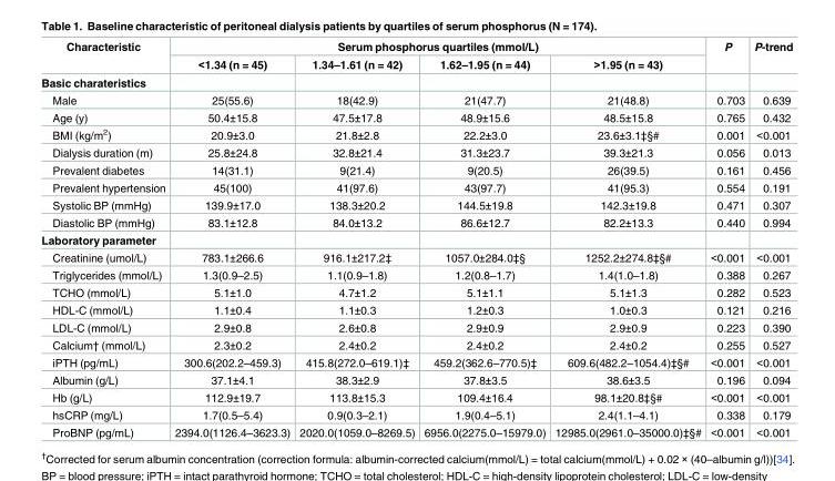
<table><thead><tr><td rowspan="2">Characteristic</td><td colspan="4">Serum phosphorus quartiles (mmol/L)</td><td rowspan="2">P</td><td rowspan="2">P-trend</td></tr><tr><td>&lt;1.34 (n = 45)</td><td>1.34–1.61 (n = 42)</td><td>1.62–1.95 (n = 44)</td><td>&gt;1.95 (n = 43)</td></tr></thead><tbody><tr><td colspan="7">Basic charateristics</td></tr><tr><td>Male</td><td>25(55.6)</td><td>18(42.9)</td><td>21(47.7)</td><td>21(48.8)</td><td>0.703</td><td>0.639</td></tr><tr><td>Age (y)</td><td>50.4±15.8</td><td>47.5±17.8</td><td>48.9±15.6</td><td>48.5±15.8</td><td>0.765</td><td>0.432</td></tr><tr><td>BMI (kg/m<sup>2</sup>)</td><td>20.9±3.0</td><td>21.8±2.8</td><td>22.2±3.0</td><td>23.6±3.1‡§#</td><td>0.001</td><td>&lt;0.001</td></tr><tr><td>Dialysis duration (m)</td><td>25.8±24.8</td><td>32.8±21.4</td><td>31.3±23.7</td><td>39.3±21.3</td><td>0.056</td><td>0.013</td></tr><tr><td>Prevalent diabetes</td><td>14(31.1)</td><td>9(21.4)</td><td>9(20.5)</td><td>26(39.5)</td><td>0.161</td><td>0.456</td></tr><tr><td>Prevalent hypertension</td><td>45(100)</td><td>41(97.6)</td><td>43(97.7)</td><td>41(95.3)</td><td>0.554</td><td>0.191</td></tr><tr><td>Systolic BP (mmHg)</td><td>139.9±17.0</td><td>138.3±20.2</td><td>144.5±19.8</td><td>142.3±19.8</td><td>0.471</td><td>0.307</td></tr><tr><td>Diastolic BP (mmHg)</td><td>83.1±12.8</td><td>84.0±13.2</td><td>86.6±12.7</td><td>82.2±13.3</td><td>0.440</td><td>0.994</td></tr><tr><td colspan="7">Laboratory parameter</td></tr><tr><td>Creatinine (umol/L)</td><td>783.1±266.6</td><td>916.1±217.2‡</td><td>1057.0±284.0‡§</td><td>1252.2±274.8‡§#</td><td>&lt;0.001</td><td>&lt;0.001</td></tr><tr><td>Triglycerides (mmol/L)</td><td>1.3(0.9–2.5)</td><td>1.1(0.9–1.8)</td><td>1.2(0.8–1.7)</td><td>1.4(1.0–1.8)</td><td>0.388</td><td>0.267</td></tr><tr><td>TCHO (mmol/L)</td><td>5.1±1.0</td><td>4.7±1.2</td><td>5.1±1.1</td><td>5.1±1.3</td><td>0.282</td><td>0.523</td></tr><tr><td>HDL-C (mmol/L)</td><td>1.1±0.4</td><td>1.1±0.3</td><td>1.2±0.3</td><td>1.0±0.3</td><td>0.121</td><td>0.216</td></tr><tr><td>LDL-C (mmol/L)</td><td>2.9±0.8</td><td>2.6±0.8</td><td>2.9±0.9</td><td>2.9±0.9</td><td>0.223</td><td>0.390</td></tr><tr><td>Calcium† (mmol/L)</td><td>2.3±0.2</td><td>2.4±0.2</td><td>2.4±0.2</td><td>2.4±0.2</td><td>0.255</td><td>0.527</td></tr><tr><td>iPTH (pg/mL)</td><td>300.6(202.2–459.3)</td><td>415.8(272.0–619.1)‡</td><td>459.2(362.6–770.5)‡</td><td>609.6(482.2–1054.4)‡§#</td><td>&lt;0.001</td><td>&lt;0.001</td></tr><tr><td>Albumin (g/L)</td><td>37.1±4.1</td><td>38.3±2.9</td><td>37.8±3.5</td><td>38.6±3.5</td><td>0.196</td><td>0.094</td></tr><tr><td>Hb (g/L)</td><td>112.9±19.7</td><td>113.8±15.3</td><td>109.4±16.4</td><td>98.1±20.8‡§#</td><td>&lt;0.001</td><td>&lt;0.001</td></tr><tr><td>hsCRP (mg/L)</td><td>1.7(0.5–5.4)</td><td>0.9(0.3–2.1)</td><td>1.9(0.4–5.1)</td><td>2.4(1.1–4.1)</td><td>0.338</td><td>0.179</td></tr><tr><td>ProBNP (pg/mL)</td><td>2394.0(1126.4–3623.3)</td><td>2020.0(1059.0–8269.5)</td><td>6956.0(2275.0–15979.0)</td><td>12985.0(2961.0–35000.0)‡§#</td><td>&lt;0.001</td><td>&lt;0.001</td></tr></tbody></table>